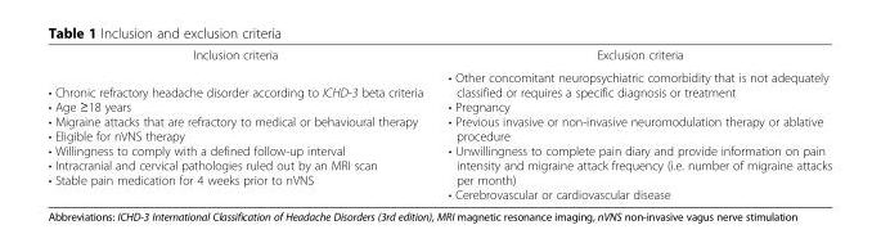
<table><tbody><tr><td>Inclusion criteria</td><td>Exclusion criteria</td></tr><tr><td>• Chronic refractory headache disorder according to ICHD-3 beta criteria • Age ≥18 years • Migraine attacks that are refractory to medical or behavioural therapy • Eligible for nVNS therapy • Willingness to comply with a defined follow-up interval • Intracranial and cervical pathologies ruled out by an MRI scan • Stable pain medication for 4 weeks prior to nVNS</td><td>• Other concomitant neuropsychiatric comorbidity that is not adequately classified or requires a specific diagnosis or treatment • Pregnancy • Previous invasive or non-invasive neuromodulation therapy or ablative procedure • Unwillingness to complete pain diary and provide information on pain intensity and migraine attack frequency (i.e. number of migraine attacks per month) • Cerebrovascular or cardiovascular disease</td></tr></tbody></table>